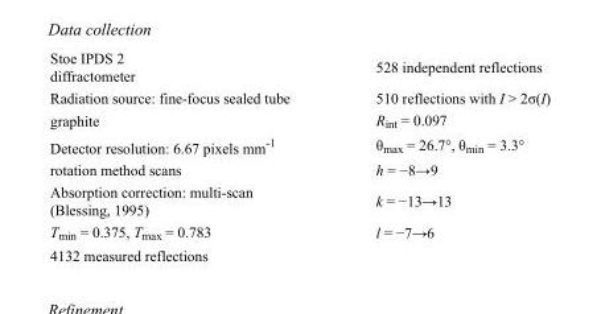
<table><tbody><tr><td>Stoe IPDS 2 diffractometer</td><td>528 independent reflections</td></tr><tr><td>Radiation source: fine-focus sealed tube</td><td>510 reflections with I &gt; 2σ(I)</td></tr><tr><td>graphite</td><td>R<sub>int</sub> = 0.097</td></tr><tr><td>Detector resolution: 6.67 pixels mm<sup>-1</sup></td><td>θ<sub>max</sub> = 26.7°, θ<sub>min</sub> = 3.3°</td></tr><tr><td>rotation method scans</td><td>h = −8→9</td></tr><tr><td>Absorption correction: multi-scan (Blessing, 1995)</td><td>k = −13→13</td></tr><tr><td>T<sub>min</sub> = 0.375, T<sub>max</sub> = 0.783</td><td>l = −7→6</td></tr><tr><td>4132 measured reflections</td><td></td></tr></tbody></table>